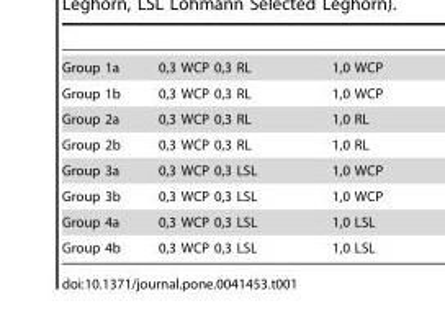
<table><tbody><tr><td>Group 1a</td><td>0,3 WCP 0,3 RL</td><td>1,0 WCP</td></tr><tr><td>Group 1b</td><td>0,3 WCP 0,3 RL</td><td>1,0 WCP</td></tr><tr><td>Group 2a</td><td>0,3 WCP 0,3 RL</td><td>1,0 RL</td></tr><tr><td>Group 2b</td><td>0,3 WCP 0,3 RL</td><td>1,0 RL</td></tr><tr><td>Group 3a</td><td>0,3 WCP 0,3 LSL</td><td>1,0 WCP</td></tr><tr><td>Group 3b</td><td>0,3 WCP 0,3 LSL</td><td>1,0 WCP</td></tr><tr><td>Group 4a</td><td>0,3 WCP 0,3 LSL</td><td>1,0 LSL</td></tr><tr><td>Group 4b</td><td>0,3 WCP 0,3 LSL</td><td>1,0 LSL</td></tr></tbody></table>